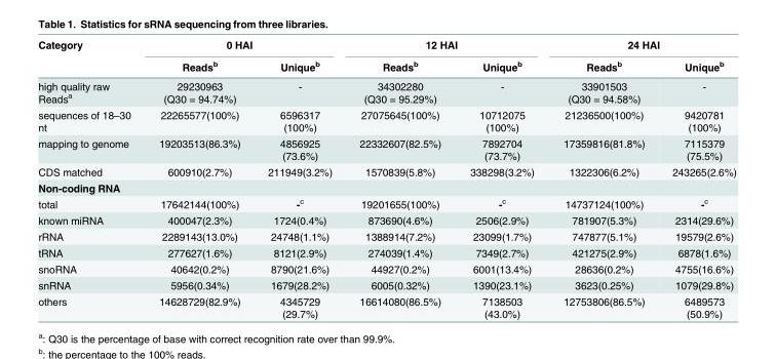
<table><thead><tr><td rowspan="2">Category</td><td colspan="2">0 HAI</td><td colspan="2">12 HAI</td><td colspan="2">24 HAI</td></tr><tr><td>Reads<sup>b</sup></td><td>Unique<sup>b</sup></td><td>Reads<sup>b</sup></td><td>Unique<sup>b</sup></td><td>Reads<sup>b</sup></td><td>Unique<sup>b</sup></td></tr></thead><tbody><tr><td>high quality raw Reads<sup>a</sup></td><td>29230963 (Q30 = 94.74%)</td><td>-</td><td>34302280 (Q30 = 95.29%)</td><td>-</td><td>33901503 (Q30 = 94.58%)</td><td>-</td></tr><tr><td>sequences of 18–30 nt</td><td>22265577(100%)</td><td>6596317 (100%)</td><td>27075645(100%)</td><td>10712075 (100%)</td><td>21236500(100%)</td><td>9420781 (100%)</td></tr><tr><td>mapping to genome</td><td>19203513(86.3%)</td><td>4856925 (73.6%)</td><td>22332607(82.5%)</td><td>7892704 (73.7%)</td><td>17359816(81.8%)</td><td>7115379 (75.5%)</td></tr><tr><td>CDS matched</td><td>600910(2.7%)</td><td>211949(3.2%)</td><td>1570839(5.8%)</td><td>338298(3.2%)</td><td>1322306(6.2%)</td><td>243265(2.6%)</td></tr><tr><td colspan="7">Non-coding RNA</td></tr><tr><td>total</td><td>17642144(100%)</td><td>-<sup>c</sup></td><td>19201655(100%)</td><td>-<sup>c</sup></td><td>14737124(100%)</td><td>-<sup>c</sup></td></tr><tr><td>known miRNA</td><td>400047(2.3%)</td><td>1724(0.4%)</td><td>873690(4.6%)</td><td>2506(2.9%)</td><td>781907(5.3%)</td><td>2314(29.6%)</td></tr><tr><td>rRNA</td><td>2289143(13.0%)</td><td>24748(1.1%)</td><td>1388914(7.2%)</td><td>23099(1.7%)</td><td>747877(5.1%)</td><td>19579(2.6%)</td></tr><tr><td>tRNA</td><td>277627(1.6%)</td><td>8121(2.9%)</td><td>274039(1.4%)</td><td>7349(2.7%)</td><td>421275(2.9%)</td><td>6878(1.6%)</td></tr><tr><td>snoRNA</td><td>40642(0.2%)</td><td>8790(21.6%)</td><td>44927(0.2%)</td><td>6001(13.4%)</td><td>28636(0.2%)</td><td>4755(16.6%)</td></tr><tr><td>snRNA</td><td>5956(0.34%)</td><td>1679(28.2%)</td><td>6005(0.32%)</td><td>1390(23.1%)</td><td>3623(0.25%)</td><td>1079(29.8%)</td></tr><tr><td>others</td><td>14628729(82.9%)</td><td>4345729 (29.7%)</td><td>16614080(86.5%)</td><td>7138503 (43.0%)</td><td>12753806(86.5%)</td><td>6489573 (50.9%)</td></tr></tbody></table>